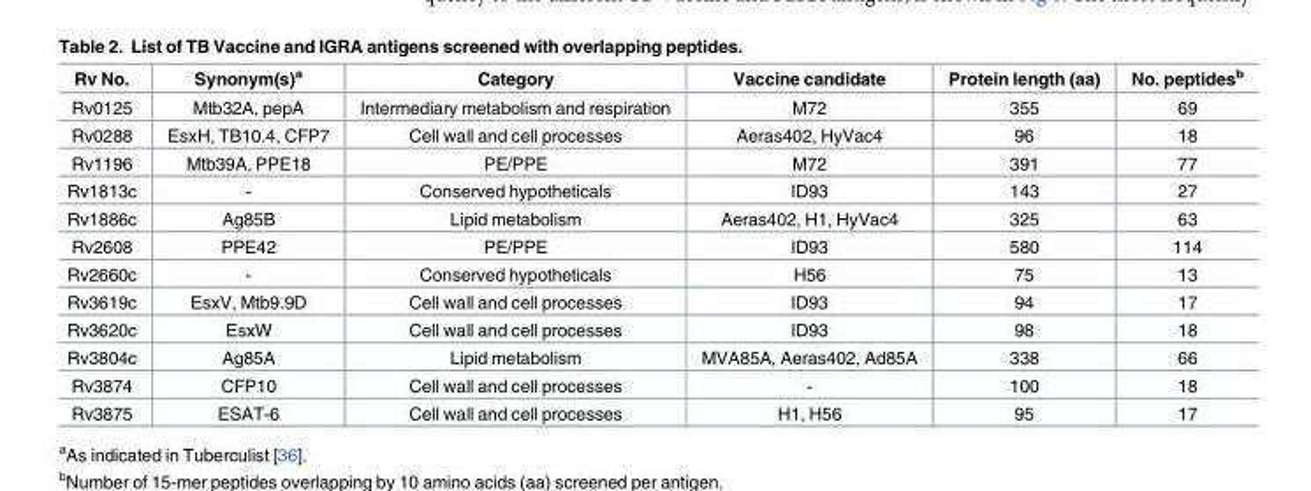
<table><thead><tr><td>Rv No.</td><td>Synonym(s)<sup>a</sup></td><td>Category</td><td>Vaccine candidate</td><td>Protein length (aa)</td><td>No. peptides<sup>b</sup></td></tr></thead><tbody><tr><td>Rv0125</td><td>Mtb32A, pepA</td><td>Intermediary metabolism and respiration</td><td>M72</td><td>355</td><td>69</td></tr><tr><td>Rv0288</td><td>EsxH, TB10.4, CFP7</td><td>Cell wall and cell processes</td><td>Aeras402, HyVac4</td><td>96</td><td>18</td></tr><tr><td>Rv1196</td><td>Mtb39A, PPE18</td><td>PE/PPE</td><td>M72</td><td>391</td><td>77</td></tr><tr><td>Rv1813c</td><td>-</td><td>Conserved hypotheticals</td><td>ID93</td><td>143</td><td>27</td></tr><tr><td>Rv1886c</td><td>Ag85B</td><td>Lipid metabolism</td><td>Aeras402, H1, HyVac4</td><td>325</td><td>63</td></tr><tr><td>Rv2608</td><td>PPE42</td><td>PE/PPE</td><td>ID93</td><td>580</td><td>114</td></tr><tr><td>Rv2660c</td><td>-</td><td>Conserved hypotheticals</td><td>H56</td><td>75</td><td>13</td></tr><tr><td>Rv3619c</td><td>EsxV, Mtb9.9D</td><td>Cell wall and cell processes</td><td>ID93</td><td>94</td><td>17</td></tr><tr><td>Rv3620c</td><td>EsxW</td><td>Cell wall and cell processes</td><td>ID93</td><td>98</td><td>18</td></tr><tr><td>Rv3804c</td><td>Ag85A</td><td>Lipid metabolism</td><td>MVA85A, Aeras402, Ad85A</td><td>338</td><td>66</td></tr><tr><td>Rv3874</td><td>CFP10</td><td>Cell wall and cell processes</td><td>-</td><td>100</td><td>18</td></tr><tr><td>Rv3875</td><td>ESAT-6</td><td>Cell wall and cell processes</td><td>H1, H56</td><td>95</td><td>17</td></tr></tbody></table>